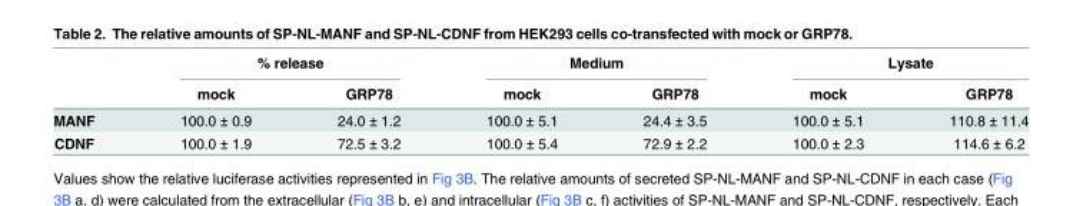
<table><thead><tr><td rowspan="2"></td><td colspan="2">% release</td><td colspan="2">Medium</td><td colspan="2">Lysate</td></tr><tr><td>mock</td><td>GRP78</td><td>mock</td><td>GRP78</td><td>mock</td><td>GRP78</td></tr></thead><tbody><tr><td>MANF</td><td>100.0 ± 0.9</td><td>24.0 ± 1.2</td><td>100.0 ± 5.1</td><td>24.4 ± 3.5</td><td>100.0 ± 5.1</td><td>110.8 ± 11.4</td></tr><tr><td>CDNF</td><td>100.0 ± 1.9</td><td>72.5 ± 3.2</td><td>100.0 ± 5.4</td><td>72.9 ± 2.2</td><td>100.0 ± 2.3</td><td>114.6 ± 6.2</td></tr></tbody></table>